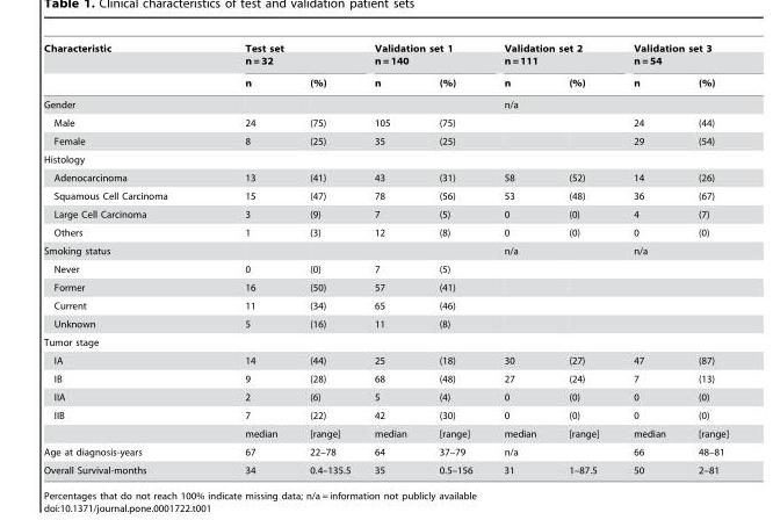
<table><thead><tr><td rowspan="3">Characteristic</td><td rowspan="2" colspan="2">Test set n = 32</td><td rowspan="2" colspan="2">Validation set 1 n = 140</td><td rowspan="2" colspan="2">Validation set 2 n = 111</td><td rowspan="2" colspan="2">Validation set 3 n = 54</td></tr><tr></tr><tr><td>n</td><td>(%)</td><td>n</td><td>(%)</td><td>n</td><td>(%)</td><td>n</td><td>(%)</td></tr></thead><tbody><tr><td>Gender</td><td></td><td></td><td></td><td></td><td colspan="2">n/a</td><td></td><td></td></tr><tr><td>Male</td><td>24</td><td>(75)</td><td>105</td><td>(75)</td><td></td><td></td><td>24</td><td>(44)</td></tr><tr><td>Female</td><td>8</td><td>(25)</td><td>35</td><td>(25)</td><td></td><td></td><td>29</td><td>(54)</td></tr><tr><td colspan="9">Histology</td></tr><tr><td>Adenocarcinoma</td><td>13</td><td>(41)</td><td>43</td><td>(31)</td><td>58</td><td>(52)</td><td>14</td><td>(26)</td></tr><tr><td>Squamous Cell Carcinoma</td><td>15</td><td>(47)</td><td>78</td><td>(56)</td><td>53</td><td>(48)</td><td>36</td><td>(67)</td></tr><tr><td>Large Cell Carcinoma</td><td>3</td><td>(9)</td><td>7</td><td>(5)</td><td>0</td><td>(0)</td><td>4</td><td>(7)</td></tr><tr><td>Others</td><td>1</td><td>(3)</td><td>12</td><td>(8)</td><td>0</td><td>(0)</td><td>0</td><td>(0)</td></tr><tr><td>Smoking status</td><td></td><td></td><td></td><td></td><td colspan="2">n/a</td><td colspan="2">n/a</td></tr><tr><td>Never</td><td>0</td><td>(0)</td><td>7</td><td>(5)</td><td></td><td></td><td></td><td></td></tr><tr><td>Former</td><td>16</td><td>(50)</td><td>57</td><td>(41)</td><td></td><td></td><td></td><td></td></tr><tr><td>Current</td><td>11</td><td>(34)</td><td>65</td><td>(46)</td><td></td><td></td><td></td><td></td></tr><tr><td>Unknown</td><td>5</td><td>(16)</td><td>11</td><td>(8)</td><td></td><td></td><td></td><td></td></tr><tr><td colspan="9">Tumor stage</td></tr><tr><td>IA</td><td>14</td><td>(44)</td><td>25</td><td>(18)</td><td>30</td><td>(27)</td><td>47</td><td>(87)</td></tr><tr><td>IB</td><td>9</td><td>(28)</td><td>68</td><td>(48)</td><td>27</td><td>(24)</td><td>7</td><td>(13)</td></tr><tr><td>IIA</td><td>2</td><td>(6)</td><td>5</td><td>(4)</td><td>0</td><td>(0)</td><td>0</td><td>(0)</td></tr><tr><td rowspan="2">IIB</td><td>7</td><td>(22)</td><td>42</td><td>(30)</td><td>0</td><td>(0)</td><td>0</td><td>(0)</td></tr><tr><td>median</td><td>[range]</td><td>median</td><td>[range]</td><td>median</td><td>[range]</td><td>median</td><td>[range]</td></tr><tr><td>Age at diagnosis-years</td><td>67</td><td>22–78</td><td>64</td><td>37–79</td><td colspan="2">n/a</td><td>66</td><td>48–81</td></tr><tr><td>Overall Survival-months</td><td>34</td><td>0.4–135.5</td><td>35</td><td>0.5–156</td><td>31</td><td>1–87.5</td><td>50</td><td>2–81</td></tr></tbody></table>